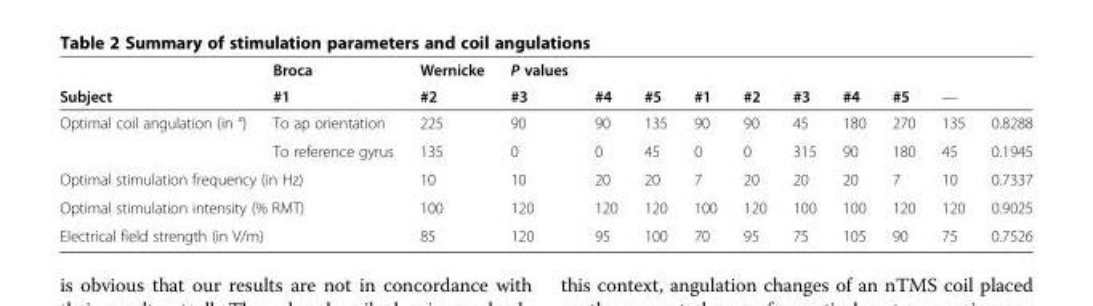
<table><thead><tr><td rowspan="2">Subject</td><td rowspan="2">Broca #1</td><td rowspan="2">Wernicke #2</td><td rowspan="2">P values #3</td><td rowspan="2">#4</td><td rowspan="2">#5</td><td rowspan="2">#1</td><td rowspan="2">#2</td><td rowspan="2">#3</td><td rowspan="2">#4</td><td rowspan="2">#5</td><td rowspan="2">—</td><td rowspan="2"></td></tr><tr></tr></thead><tbody><tr><td rowspan="2">Optimal coil angulation (in °)</td><td>To ap orientation</td><td>225</td><td>90</td><td>90</td><td>135</td><td>90</td><td>90</td><td>45</td><td>180</td><td>270</td><td>135</td><td>0.8288</td></tr><tr><td>To reference gyrus</td><td>135</td><td>0</td><td>0</td><td>45</td><td>0</td><td>0</td><td>315</td><td>90</td><td>180</td><td>45</td><td>0.1945</td></tr><tr><td colspan="2">Optimal stimulation frequency (in Hz)</td><td>10</td><td>10</td><td>20</td><td>20</td><td>7</td><td>20</td><td>20</td><td>20</td><td>7</td><td>10</td><td>0.7337</td></tr><tr><td colspan="2">Optimal stimulation intensity (% RMT)</td><td>100</td><td>120</td><td>120</td><td>120</td><td>100</td><td>120</td><td>100</td><td>100</td><td>120</td><td>120</td><td>0.9025</td></tr><tr><td colspan="2">Electrical field strength (in V/m)</td><td>85</td><td>120</td><td>95</td><td>100</td><td>70</td><td>95</td><td>75</td><td>105</td><td>90</td><td>75</td><td>0.7526</td></tr></tbody></table>